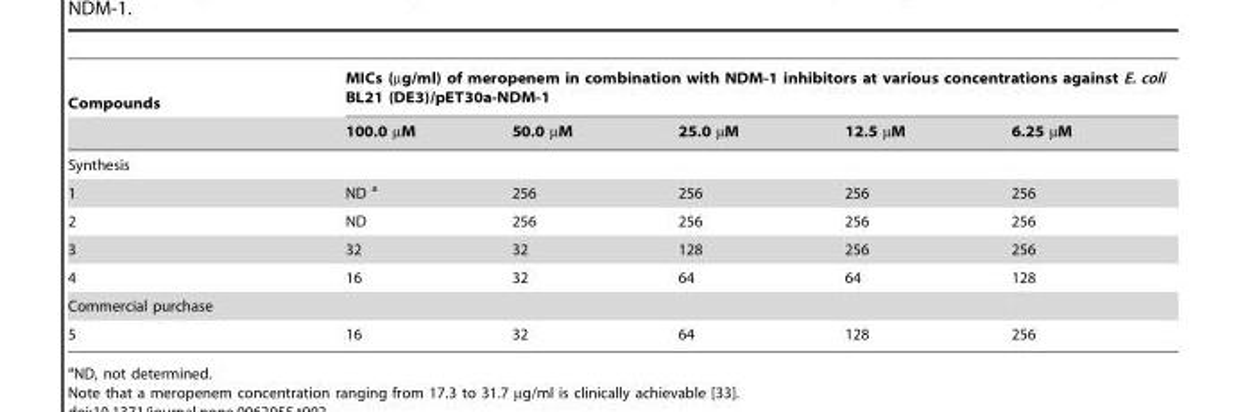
<table><thead><tr><td rowspan="2">Compounds</td><td colspan="5">MICs (µg/ml) of meropenem in combination with NDM-1 inhibitors at various concentrations against E. coli BL21 (DE3)/pET30a-NDM-1</td></tr><tr><td>100.0 µM</td><td>50.0 µM</td><td>25.0 µM</td><td>12.5 µM</td><td>6.25 µM</td></tr></thead><tbody><tr><td colspan="6">Synthesis</td></tr><tr><td>1</td><td>ND a</td><td>256</td><td>256</td><td>256</td><td>256</td></tr><tr><td>2</td><td>ND</td><td>256</td><td>256</td><td>256</td><td>256</td></tr><tr><td>3</td><td>32</td><td>32</td><td>128</td><td>256</td><td>256</td></tr><tr><td>4</td><td>16</td><td>32</td><td>64</td><td>64</td><td>128</td></tr><tr><td colspan="6">Commercial purchase</td></tr><tr><td>5</td><td>16</td><td>32</td><td>64</td><td>128</td><td>256</td></tr></tbody></table>